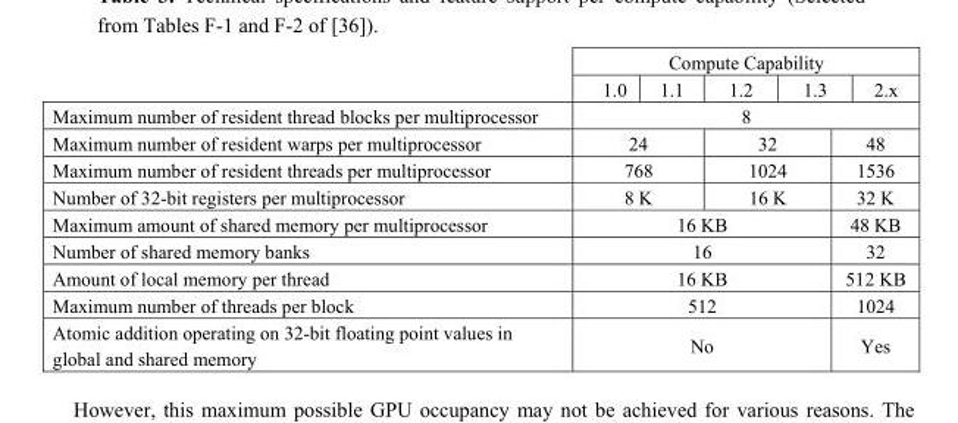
<table><thead><tr><td rowspan="2"></td><td colspan="5">Compute Capability</td></tr><tr><td>1.0</td><td>1.1</td><td>1.2</td><td>1.3</td><td>2.x</td></tr></thead><tbody><tr><td>Maximum number of resident thread blocks per multiprocessor</td><td colspan="5">8</td></tr><tr><td>Maximum number of resident warps per multiprocessor</td><td colspan="2">24</td><td colspan="2">32</td><td>48</td></tr><tr><td>Maximum number of resident threads per multiprocessor</td><td colspan="2">768</td><td colspan="2">1024</td><td>1536</td></tr><tr><td>Number of 32-bit registers per multiprocessor</td><td colspan="2">8 K</td><td colspan="2">16 K</td><td>32 K</td></tr><tr><td>Maximum amount of shared memory per multiprocessor</td><td colspan="4">16 KB</td><td>48 KB</td></tr><tr><td>Number of shared memory banks</td><td colspan="4">16</td><td>32</td></tr><tr><td>Amount of local memory per thread</td><td colspan="4">16 KB</td><td>512 KB</td></tr><tr><td>Maximum number of threads per block</td><td colspan="4">512</td><td>1024</td></tr><tr><td>Atomic addition operating on 32-bit floating point values in global and shared memory</td><td colspan="4">No</td><td>Yes</td></tr></tbody></table>